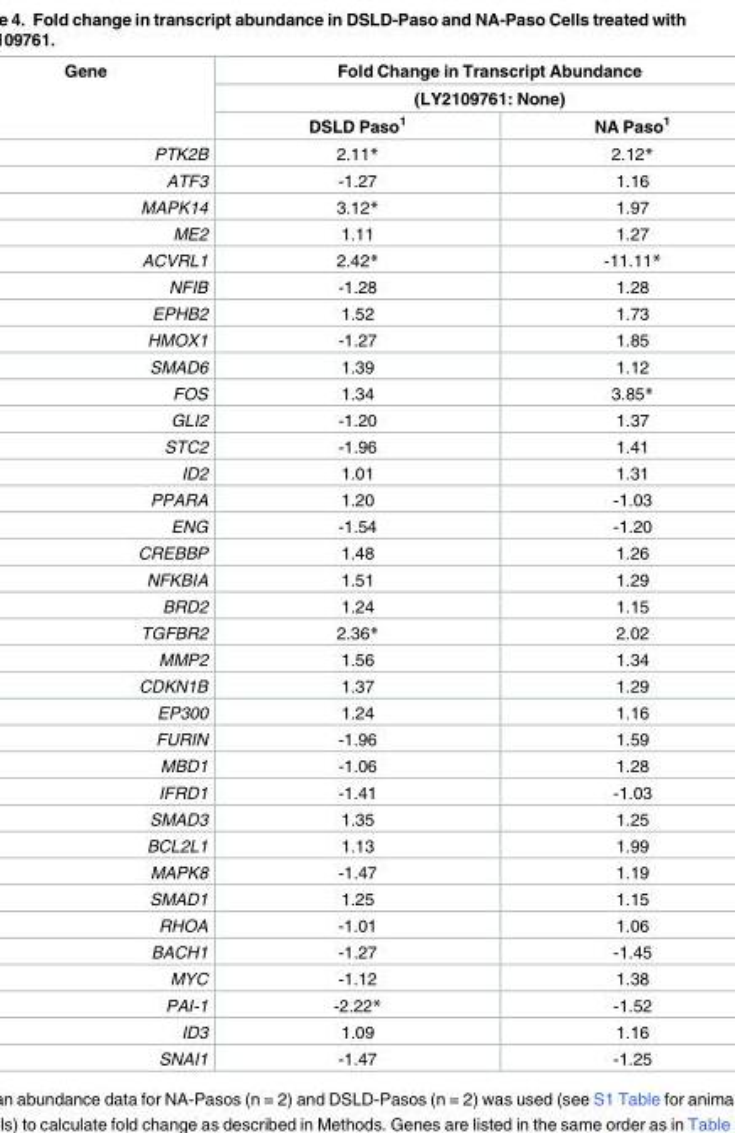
<table><thead><tr><td rowspan="3">Gene</td><td rowspan="2" colspan="2">Fold Change in Transcript Abundance (LY2109761: None)</td></tr><tr></tr><tr><td>DSLD Paso<sup>1</sup></td><td>NA Paso<sup>1</sup></td></tr></thead><tbody><tr><td>PTK2B</td><td>2.11*</td><td>2.12*</td></tr><tr><td>ATF3</td><td>-1.27</td><td>1.16</td></tr><tr><td>MAPK14</td><td>3.12*</td><td>1.97</td></tr><tr><td>ME2</td><td>1.11</td><td>1.27</td></tr><tr><td>ACVRL1</td><td>2.42*</td><td>-11.11*</td></tr><tr><td>NFIB</td><td>-1.28</td><td>1.28</td></tr><tr><td>EPHB2</td><td>1.52</td><td>1.73</td></tr><tr><td>HMOX1</td><td>-1.27</td><td>1.85</td></tr><tr><td>SMAD6</td><td>1.39</td><td>1.12</td></tr><tr><td>FOS</td><td>1.34</td><td>3.85*</td></tr><tr><td>GLI2</td><td>-1.20</td><td>1.37</td></tr><tr><td>STC2</td><td>-1.96</td><td>1.41</td></tr><tr><td>ID2</td><td>1.01</td><td>1.31</td></tr><tr><td>PPARA</td><td>1.20</td><td>-1.03</td></tr><tr><td>ENG</td><td>-1.54</td><td>-1.20</td></tr><tr><td>CREBBP</td><td>1.48</td><td>1.26</td></tr><tr><td>NFKBIA</td><td>1.51</td><td>1.29</td></tr><tr><td>BRD2</td><td>1.24</td><td>1.15</td></tr><tr><td>TGFBR2</td><td>2.36*</td><td>2.02</td></tr><tr><td>MMP2</td><td>1.56</td><td>1.34</td></tr><tr><td>CDKN1B</td><td>1.37</td><td>1.29</td></tr><tr><td>EP300</td><td>1.24</td><td>1.16</td></tr><tr><td>FURIN</td><td>-1.96</td><td>1.59</td></tr><tr><td>MBD1</td><td>-1.06</td><td>1.28</td></tr><tr><td>IFRD1</td><td>-1.41</td><td>-1.03</td></tr><tr><td>SMAD3</td><td>1.35</td><td>1.25</td></tr><tr><td>BCL2L1</td><td>1.13</td><td>1.99</td></tr><tr><td>MAPK8</td><td>-1.47</td><td>1.19</td></tr><tr><td>SMAD1</td><td>1.25</td><td>1.15</td></tr><tr><td>RHOA</td><td>-1.01</td><td>1.06</td></tr><tr><td>BACH1</td><td>-1.27</td><td>-1.45</td></tr><tr><td>MYC</td><td>-1.12</td><td>1.38</td></tr><tr><td>PAI-1</td><td>-2.22*</td><td>-1.52</td></tr><tr><td>ID3</td><td>1.09</td><td>1.16</td></tr><tr><td>SNAI1</td><td>-1.47</td><td>-1.25</td></tr></tbody></table>